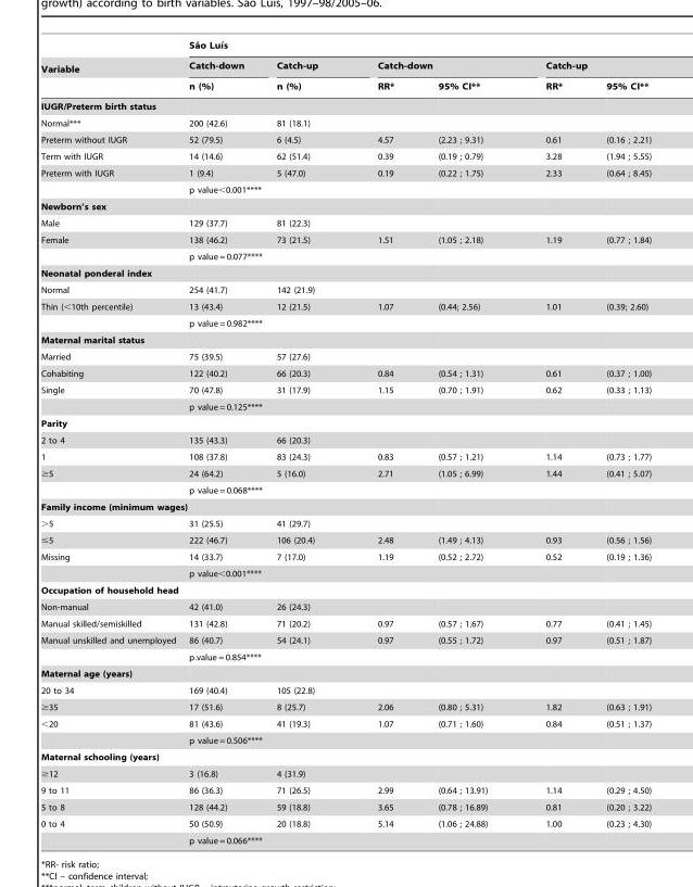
<table><thead><tr><td rowspan="3">Variable</td><td colspan="6">Sa˜o Luı´s</td></tr><tr><td rowspan="2">Catch-down n (%)</td><td rowspan="2">Catch-up n (%)</td><td colspan="2">Catch-down</td><td colspan="2">Catch-up</td></tr><tr><td>RR*</td><td>95% CI**</td><td>RR*</td><td>95% CI**</td></tr></thead><tbody><tr><td colspan="7">IUGR/Preterm birth status</td></tr><tr><td>Normal***</td><td>200 (42.6)</td><td>81 (18.1)</td><td></td><td></td><td></td><td></td></tr><tr><td>Preterm without IUGR</td><td>52 (79.5)</td><td>6 (4.5)</td><td>4.57</td><td>(2.23 ; 9.31)</td><td>0.61</td><td>(0.16 ; 2.21)</td></tr><tr><td>Term with IUGR</td><td>14 (14.6)</td><td>62 (51.4)</td><td>0.39</td><td>(0.19 ; 0.79)</td><td>3.28</td><td>(1.94 ; 5.55)</td></tr><tr><td rowspan="2">Preterm with IUGR</td><td>1 (9.4)</td><td>5 (47.0)</td><td>0.19</td><td>(0.22 ; 1.75)</td><td>2.33</td><td>(0.64 ; 8.45)</td></tr><tr><td colspan="2">p value&lt;0.001****</td><td colspan="2"></td><td></td><td></td></tr><tr><td colspan="7">Newborn’s sex</td></tr><tr><td>Male</td><td>129 (37.7)</td><td>81 (22.3)</td><td></td><td></td><td></td><td></td></tr><tr><td rowspan="2">Female</td><td>138 (46.2)</td><td>73 (21.5)</td><td>1.51</td><td>(1.05 ; 2.18)</td><td>1.19</td><td>(0.77 ; 1.84)</td></tr><tr><td colspan="2">p value = 0.077****</td><td colspan="2"></td><td></td><td></td></tr><tr><td colspan="7">Neonatal ponderal index</td></tr><tr><td>Normal</td><td>254 (41.7)</td><td>142 (21.9)</td><td></td><td></td><td></td><td></td></tr><tr><td rowspan="2">Thin (&lt;10th percentile)</td><td>13 (43.4)</td><td>12 (21.5)</td><td>1.07</td><td>(0.44; 2.56)</td><td>1.01</td><td>(0.39; 2.60)</td></tr><tr><td colspan="2">p value = 0.982****</td><td></td><td></td><td></td><td></td></tr><tr><td colspan="7">Maternal marital status</td></tr><tr><td>Married</td><td>75 (39.5)</td><td>57 (27.6)</td><td></td><td></td><td></td><td></td></tr><tr><td>Cohabiting</td><td>122 (40.2)</td><td>66 (20.3)</td><td>0.84</td><td>(0.54 ; 1.31)</td><td>0.61</td><td>(0.37 ; 1.00)</td></tr><tr><td rowspan="2">Single</td><td>70 (47.8)</td><td>31 (17.9)</td><td>1.15</td><td>(0.70 ; 1.91)</td><td>0.62</td><td>(0.33 ; 1.13)</td></tr><tr><td colspan="2">p value = 0.125****</td><td colspan="2"></td><td></td><td></td></tr><tr><td colspan="7">Parity</td></tr><tr><td>2 to 4</td><td>135 (43.3)</td><td>66 (20.3)</td><td></td><td></td><td></td><td></td></tr><tr><td>1</td><td>108 (37.8)</td><td>83 (24.3)</td><td>0.83</td><td>(0.57 ; 1.21)</td><td>1.14</td><td>(0.73 ; 1.77)</td></tr><tr><td rowspan="2">≥5</td><td>24 (64.2)</td><td>5 (16.0)</td><td>2.71</td><td>(1.05 ; 6.99)</td><td>1.44</td><td>(0.41 ; 5.07)</td></tr><tr><td colspan="2">p value = 0.068****</td><td colspan="2"></td><td></td><td></td></tr><tr><td colspan="7">Family income (minimum wages)</td></tr><tr><td>&gt;5</td><td>31 (25.5)</td><td>41 (29.7)</td><td></td><td></td><td></td><td></td></tr><tr><td>≤5</td><td>222 (46.7)</td><td>106 (20.4)</td><td>2.48</td><td>(1.49 ; 4.13)</td><td>0.93</td><td>(0.56 ; 1.56)</td></tr><tr><td rowspan="2">Missing</td><td>14 (33.7)</td><td>7 (17.0)</td><td>1.19</td><td>(0.52 ; 2.72)</td><td>0.52</td><td>(0.19 ; 1.36)</td></tr><tr><td colspan="2">p value&lt;0.001****</td><td colspan="2"></td><td></td><td></td></tr><tr><td colspan="7">Occupation of household head</td></tr><tr><td>Non-manual</td><td>42 (41.0)</td><td>26 (24.3)</td><td></td><td></td><td></td><td></td></tr><tr><td>Manual skilled/semiskilled</td><td>131 (42.8)</td><td>71 (20.2)</td><td>0.97</td><td>(0.57 ; 1.67)</td><td>0.77</td><td>(0.41 ; 1.45)</td></tr><tr><td rowspan="2">Manual unskilled and unemployed</td><td>86 (40.7)</td><td>54 (24.1)</td><td>0.97</td><td>(0.55 ; 1.72)</td><td>0.97</td><td>(0.51 ; 1.87)</td></tr><tr><td colspan="2">p.value = 0.854****</td><td colspan="2"></td><td></td><td></td></tr><tr><td colspan="7">Maternal age (years)</td></tr><tr><td>20 to 34</td><td>169 (40.4)</td><td>105 (22.8)</td><td></td><td></td><td></td><td></td></tr><tr><td>≥35</td><td>17 (51.6)</td><td>8 (25.7)</td><td>2.06</td><td>(0.80 ; 5.31)</td><td>1.82</td><td>(0.63 ; 1.91)</td></tr><tr><td rowspan="2">&lt;20</td><td>81 (43.6)</td><td>41 (19.3)</td><td>1.07</td><td>(0.71 ; 1.60)</td><td>0.84</td><td>(0.51 ; 1.37)</td></tr><tr><td colspan="2">p value = 0.506****</td><td colspan="2"></td><td></td><td></td></tr><tr><td colspan="7">Maternal schooling (years)</td></tr><tr><td>≥12</td><td>3 (16.8)</td><td>4 (31.9)</td><td></td><td></td><td></td><td></td></tr><tr><td>9 to 11</td><td>86 (36.3)</td><td>71 (26.5)</td><td>2.99</td><td>(0.64 ; 13.91)</td><td>1.14</td><td>(0.29 ; 4.50)</td></tr><tr><td>5 to 8</td><td>128 (44.2)</td><td>59 (18.8)</td><td>3.65</td><td>(0.78 ; 16.89)</td><td>0.81</td><td>(0.20 ; 3.22)</td></tr><tr><td rowspan="2">0 to 4</td><td>50 (50.9)</td><td>20 (18.8)</td><td>5.14</td><td>(1.06 ; 24.88)</td><td>1.00</td><td>(0.23 ; 4.30)</td></tr><tr><td colspan="2">p value = 0.066****</td><td colspan="2"></td><td></td><td></td></tr></tbody></table>